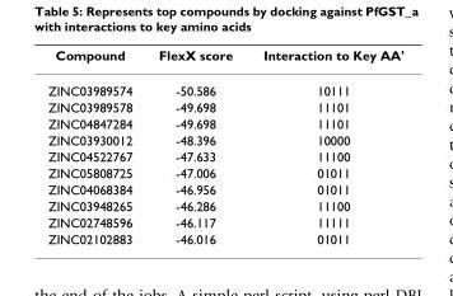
<table><thead><tr><td>Compound</td><td>FlexX score</td><td>Interaction to Key AA&#x27;</td></tr></thead><tbody><tr><td>ZINC03989574</td><td>-50.586</td><td>10111</td></tr><tr><td>ZINC03989578</td><td>-49.698</td><td>11101</td></tr><tr><td>ZINC04847284</td><td>-49.698</td><td>11101</td></tr><tr><td>ZINC03930012</td><td>-48.396</td><td>10000</td></tr><tr><td>ZINC04522767</td><td>-47.633</td><td>11100</td></tr><tr><td>ZINC05808725</td><td>-47.006</td><td>01011</td></tr><tr><td>ZINC04068384</td><td>-46.956</td><td>01011</td></tr><tr><td>ZINC03948265</td><td>-46.286</td><td>11100</td></tr><tr><td>ZINC02748596</td><td>-46.117</td><td>11111</td></tr><tr><td>ZINC02102883</td><td>-46.016</td><td>01011</td></tr></tbody></table>